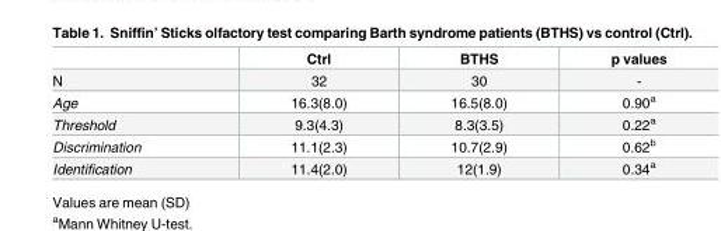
<table><thead><tr><td></td><td>Ctrl</td><td>BTHS</td><td>p values</td></tr></thead><tbody><tr><td>N</td><td>32</td><td>30</td><td>-</td></tr><tr><td>Age</td><td>16.3(8.0)</td><td>16.5(8.0)</td><td>0.90<sup>a</sup></td></tr><tr><td>Threshold</td><td>9.3(4.3)</td><td>8.3(3.5)</td><td>0.22<sup>a</sup></td></tr><tr><td>Discrimination</td><td>11.1(2.3)</td><td>10.7(2.9)</td><td>0.62<sup>b</sup></td></tr><tr><td>Identification</td><td>11.4(2.0)</td><td>12(1.9)</td><td>0.34<sup>a</sup></td></tr></tbody></table>